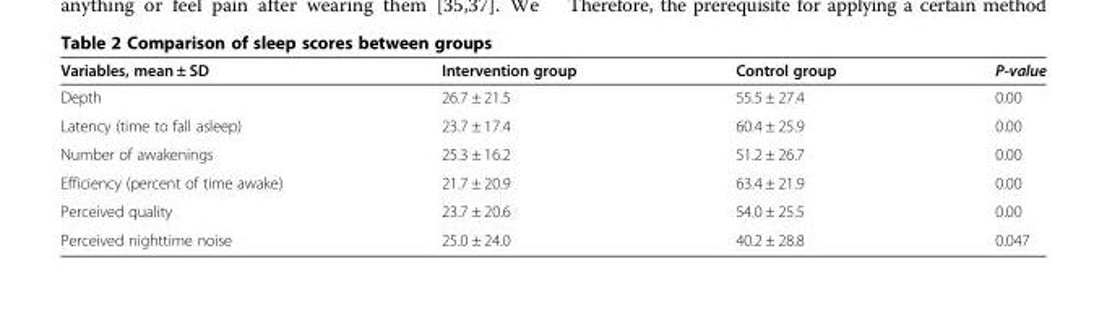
<table><thead><tr><td>Variables, mean ± SD</td><td>Intervention group</td><td>Control group</td><td>P-value</td></tr></thead><tbody><tr><td>Depth</td><td>26.7 ± 21.5</td><td>55.5 ± 27.4</td><td>0.00</td></tr><tr><td>Latency (time to fall asleep)</td><td>23.7 ± 17.4</td><td>60.4 ± 25.9</td><td>0.00</td></tr><tr><td>Number of awakenings</td><td>25.3 ± 16.2</td><td>51.2 ± 26.7</td><td>0.00</td></tr><tr><td>Efficiency (percent of time awake)</td><td>21.7 ± 20.9</td><td>63.4 ± 21.9</td><td>0.00</td></tr><tr><td>Perceived quality</td><td>23.7 ± 20.6</td><td>54.0 ± 25.5</td><td>0.00</td></tr><tr><td>Perceived nighttime noise</td><td>25.0 ± 24.0</td><td>40.2 ± 28.8</td><td>0.047</td></tr></tbody></table>